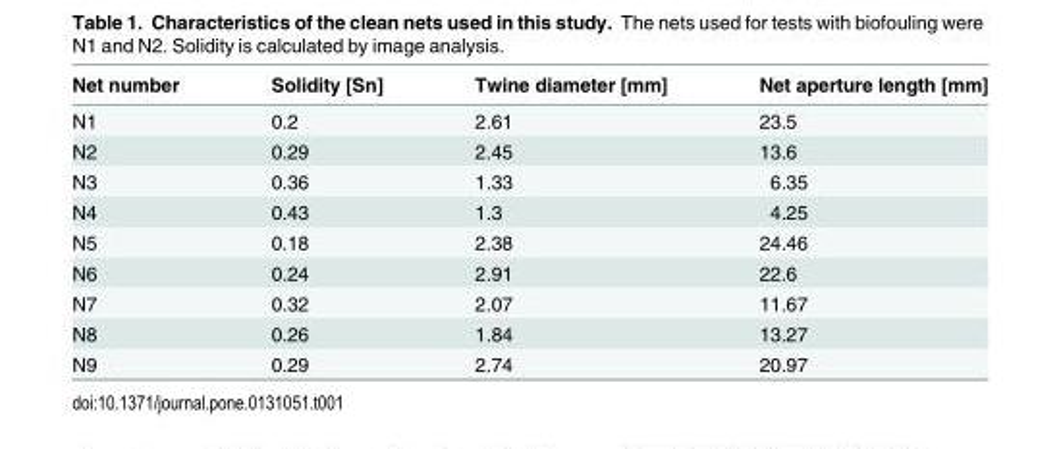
<table><thead><tr><td>Net number</td><td>Solidity [Sn]</td><td>Twine diameter [mm]</td><td>Net aperture length [mm]</td></tr></thead><tbody><tr><td>N1</td><td>0.2</td><td>2.61</td><td>23.5</td></tr><tr><td>N2</td><td>0.29</td><td>2.45</td><td>13.6</td></tr><tr><td>N3</td><td>0.36</td><td>1.33</td><td>6.35</td></tr><tr><td>N4</td><td>0.43</td><td>1.3</td><td>4.25</td></tr><tr><td>N5</td><td>0.18</td><td>2.38</td><td>24.46</td></tr><tr><td>N6</td><td>0.24</td><td>2.91</td><td>22.6</td></tr><tr><td>N7</td><td>0.32</td><td>2.07</td><td>11.67</td></tr><tr><td>N8</td><td>0.26</td><td>1.84</td><td>13.27</td></tr><tr><td>N9</td><td>0.29</td><td>2.74</td><td>20.97</td></tr></tbody></table>